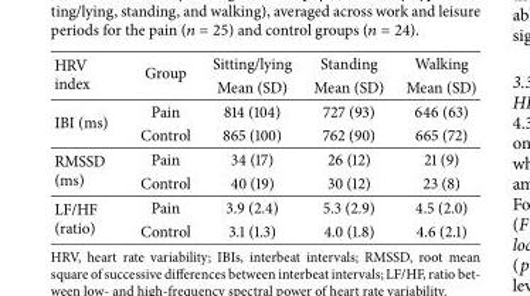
<table><thead><tr><td rowspan="2">HRV index</td><td rowspan="2">Group</td><td rowspan="2">Sitting/lying Mean (SD)</td><td rowspan="2">Standing Mean (SD)</td><td rowspan="2">Walking Mean (SD)</td></tr><tr></tr></thead><tbody><tr><td rowspan="2">IBI (ms)</td><td>Pain</td><td>814 (104)</td><td>727 (93)</td><td>646 (63)</td></tr><tr><td>Control</td><td>865 (100)</td><td>762 (90)</td><td>665 (72)</td></tr><tr><td rowspan="2">RMSSD (ms)</td><td>Pain</td><td>34 (17)</td><td>26 (12)</td><td>21 (9)</td></tr><tr><td>Control</td><td>40 (19)</td><td>30 (12)</td><td>23 (8)</td></tr><tr><td rowspan="2">LF/HF (ratio)</td><td>Pain</td><td>3.9 (2.4)</td><td>5.3 (2.9)</td><td>4.5 (2.0)</td></tr><tr><td>Control</td><td>3.1 (1.3)</td><td>4.0 (1.8)</td><td>4.6 (2.1)</td></tr></tbody></table>